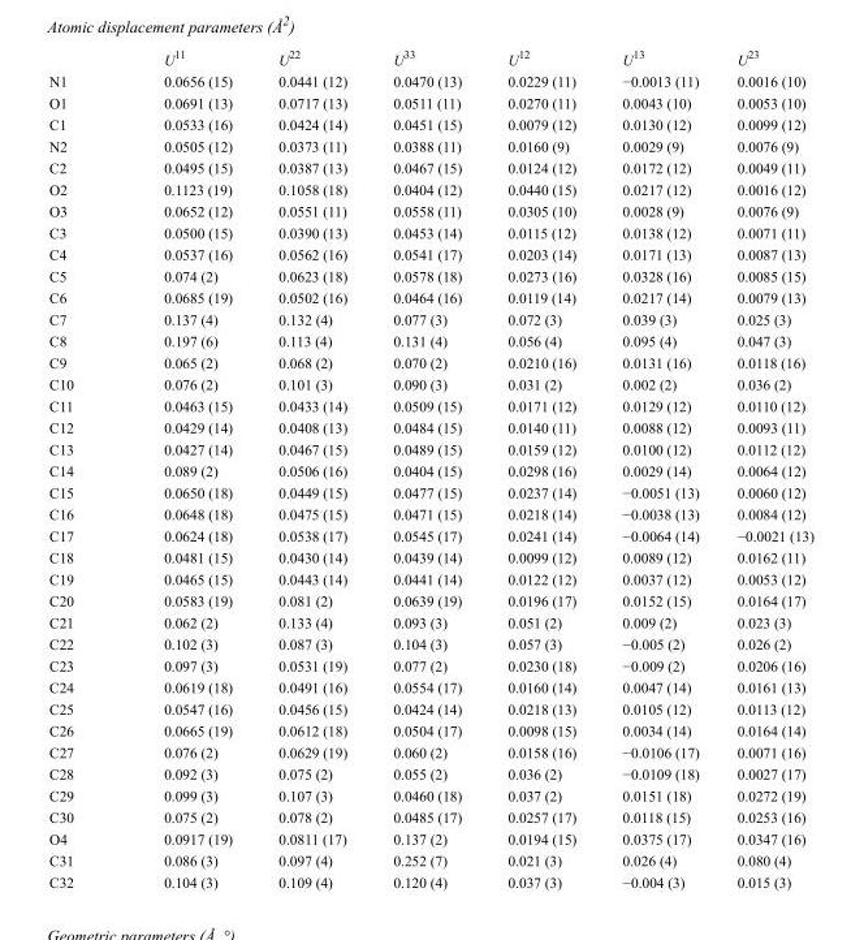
<table><thead><tr><td></td><td>U<sup>11</sup></td><td>U<sup>22</sup></td><td>U<sup>33</sup></td><td>U<sup>12</sup></td><td>U<sup>13</sup></td><td>U<sup>23</sup></td></tr></thead><tbody><tr><td>N1</td><td>0.0656 (15)</td><td>0.0441 (12)</td><td>0.0470 (13)</td><td>0.0229 (11)</td><td>−0.0013 (11)</td><td>0.0016 (10)</td></tr><tr><td>O1</td><td>0.0691 (13)</td><td>0.0717 (13)</td><td>0.0511 (11)</td><td>0.0270 (11)</td><td>0.0043 (10)</td><td>0.0053 (10)</td></tr><tr><td>C1</td><td>0.0533 (16)</td><td>0.0424 (14)</td><td>0.0451 (15)</td><td>0.0079 (12)</td><td>0.0130 (12)</td><td>0.0099 (12)</td></tr><tr><td>N2</td><td>0.0505 (12)</td><td>0.0373 (11)</td><td>0.0388 (11)</td><td>0.0160 (9)</td><td>0.0029 (9)</td><td>0.0076 (9)</td></tr><tr><td>C2</td><td>0.0495 (15)</td><td>0.0387 (13)</td><td>0.0467 (15)</td><td>0.0124 (12)</td><td>0.0172 (12)</td><td>0.0049 (11)</td></tr><tr><td>O2</td><td>0.1123 (19)</td><td>0.1058 (18)</td><td>0.0404 (12)</td><td>0.0440 (15)</td><td>0.0217 (12)</td><td>0.0016 (12)</td></tr><tr><td>O3</td><td>0.0652 (12)</td><td>0.0551 (11)</td><td>0.0558 (11)</td><td>0.0305 (10)</td><td>0.0028 (9)</td><td>0.0076 (9)</td></tr><tr><td>C3</td><td>0.0500 (15)</td><td>0.0390 (13)</td><td>0.0453 (14)</td><td>0.0115 (12)</td><td>0.0138 (12)</td><td>0.0071 (11)</td></tr><tr><td>C4</td><td>0.0537 (16)</td><td>0.0562 (16)</td><td>0.0541 (17)</td><td>0.0203 (14)</td><td>0.0171 (13)</td><td>0.0087 (13)</td></tr><tr><td>C5</td><td>0.074 (2)</td><td>0.0623 (18)</td><td>0.0578 (18)</td><td>0.0273 (16)</td><td>0.0328 (16)</td><td>0.0085 (15)</td></tr><tr><td>C6</td><td>0.0685 (19)</td><td>0.0502 (16)</td><td>0.0464 (16)</td><td>0.0119 (14)</td><td>0.0217 (14)</td><td>0.0079 (13)</td></tr><tr><td>C7</td><td>0.137 (4)</td><td>0.132 (4)</td><td>0.077 (3)</td><td>0.072 (3)</td><td>0.039 (3)</td><td>0.025 (3)</td></tr><tr><td>C8</td><td>0.197 (6)</td><td>0.113 (4)</td><td>0.131 (4)</td><td>0.056 (4)</td><td>0.095 (4)</td><td>0.047 (3)</td></tr><tr><td>C9</td><td>0.065 (2)</td><td>0.068 (2)</td><td>0.070 (2)</td><td>0.0210 (16)</td><td>0.0131 (16)</td><td>0.0118 (16)</td></tr><tr><td>C10</td><td>0.076 (2)</td><td>0.101 (3)</td><td>0.090 (3)</td><td>0.031 (2)</td><td>0.002 (2)</td><td>0.036 (2)</td></tr><tr><td>C11</td><td>0.0463 (15)</td><td>0.0433 (14)</td><td>0.0509 (15)</td><td>0.0171 (12)</td><td>0.0129 (12)</td><td>0.0110 (12)</td></tr><tr><td>C12</td><td>0.0429 (14)</td><td>0.0408 (13)</td><td>0.0484 (15)</td><td>0.0140 (11)</td><td>0.0088 (12)</td><td>0.0093 (11)</td></tr><tr><td>C13</td><td>0.0427 (14)</td><td>0.0467 (15)</td><td>0.0489 (15)</td><td>0.0159 (12)</td><td>0.0100 (12)</td><td>0.0112 (12)</td></tr><tr><td>C14</td><td>0.089 (2)</td><td>0.0506 (16)</td><td>0.0404 (15)</td><td>0.0298 (16)</td><td>0.0029 (14)</td><td>0.0064 (12)</td></tr><tr><td>C15</td><td>0.0650 (18)</td><td>0.0449 (15)</td><td>0.0477 (15)</td><td>0.0237 (14)</td><td>−0.0051 (13)</td><td>0.0060 (12)</td></tr><tr><td>C16</td><td>0.0648 (18)</td><td>0.0475 (15)</td><td>0.0471 (15)</td><td>0.0218 (14)</td><td>−0.0038 (13)</td><td>0.0084 (12)</td></tr><tr><td>C17</td><td>0.0624 (18)</td><td>0.0538 (17)</td><td>0.0545 (17)</td><td>0.0241 (14)</td><td>−0.0064 (14)</td><td>−0.0021 (13)</td></tr><tr><td>C18</td><td>0.0481 (15)</td><td>0.0430 (14)</td><td>0.0439 (14)</td><td>0.0099 (12)</td><td>0.0089 (12)</td><td>0.0162 (11)</td></tr><tr><td>C19</td><td>0.0465 (15)</td><td>0.0443 (14)</td><td>0.0441 (14)</td><td>0.0122 (12)</td><td>0.0037 (12)</td><td>0.0053 (12)</td></tr><tr><td>C20</td><td>0.0583 (19)</td><td>0.081 (2)</td><td>0.0639 (19)</td><td>0.0196 (17)</td><td>0.0152 (15)</td><td>0.0164 (17)</td></tr><tr><td>C21</td><td>0.062 (2)</td><td>0.133 (4)</td><td>0.093 (3)</td><td>0.051 (2)</td><td>0.009 (2)</td><td>0.023 (3)</td></tr><tr><td>C22</td><td>0.102 (3)</td><td>0.087 (3)</td><td>0.104 (3)</td><td>0.057 (3)</td><td>−0.005 (2)</td><td>0.026 (2)</td></tr><tr><td>C23</td><td>0.097 (3)</td><td>0.0531 (19)</td><td>0.077 (2)</td><td>0.0230 (18)</td><td>−0.009 (2)</td><td>0.0206 (16)</td></tr><tr><td>C24</td><td>0.0619 (18)</td><td>0.0491 (16)</td><td>0.0554 (17)</td><td>0.0160 (14)</td><td>0.0047 (14)</td><td>0.0161 (13)</td></tr><tr><td>C25</td><td>0.0547 (16)</td><td>0.0456 (15)</td><td>0.0424 (14)</td><td>0.0218 (13)</td><td>0.0105 (12)</td><td>0.0113 (12)</td></tr><tr><td>C26</td><td>0.0665 (19)</td><td>0.0612 (18)</td><td>0.0504 (17)</td><td>0.0098 (15)</td><td>0.0034 (14)</td><td>0.0164 (14)</td></tr><tr><td>C27</td><td>0.076 (2)</td><td>0.0629 (19)</td><td>0.060 (2)</td><td>0.0158 (16)</td><td>−0.0106 (17)</td><td>0.0071 (16)</td></tr><tr><td>C28</td><td>0.092 (3)</td><td>0.075 (2)</td><td>0.055 (2)</td><td>0.036 (2)</td><td>−0.0109 (18)</td><td>0.0027 (17)</td></tr><tr><td>C29</td><td>0.099 (3)</td><td>0.107 (3)</td><td>0.0460 (18)</td><td>0.037 (2)</td><td>0.0151 (18)</td><td>0.0272 (19)</td></tr><tr><td>C30</td><td>0.075 (2)</td><td>0.078 (2)</td><td>0.0485 (17)</td><td>0.0257 (17)</td><td>0.0118 (15)</td><td>0.0253 (16)</td></tr><tr><td>O4</td><td>0.0917 (19)</td><td>0.0811 (17)</td><td>0.137 (2)</td><td>0.0194 (15)</td><td>0.0375 (17)</td><td>0.0347 (16)</td></tr><tr><td>C31</td><td>0.086 (3)</td><td>0.097 (4)</td><td>0.252 (7)</td><td>0.021 (3)</td><td>0.026 (4)</td><td>0.080 (4)</td></tr><tr><td>C32</td><td>0.104 (3)</td><td>0.109 (4)</td><td>0.120 (4)</td><td>0.037 (3)</td><td>−0.004 (3)</td><td>0.015 (3)</td></tr></tbody></table>